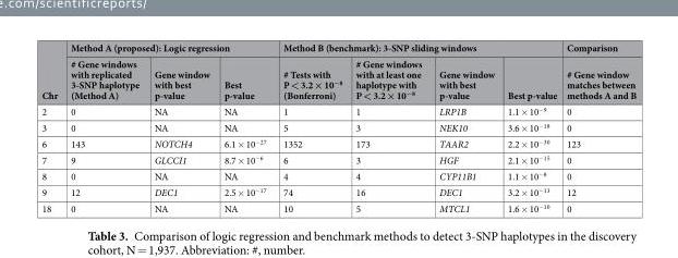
<table><thead><tr><td rowspan="2">Chr</td><td colspan="3">Method A (proposed): Logic regression</td><td colspan="4">Method B (benchmark): 3-SNP sliding windows</td><td rowspan="2">Comparison # Gene window matches between methods A and B</td></tr><tr><td># Gene windows with replicated 3-SNP haplotype (Method A)</td><td>Gene window with best p-value</td><td>Best p-value</td><td># Tests with P &lt; 3.2 × 10<sup>−8</sup> (Bonferroni)</td><td># Gene windows with at least one haplotype with P &lt; 3.2 × 10<sup>−8</sup></td><td>Gene window with best p-value</td><td>Best p-value</td></tr></thead><tbody><tr><td>2</td><td>0</td><td>NA</td><td>NA</td><td>1</td><td>1</td><td>LRP1B</td><td>1.1 × 10<sup>−9</sup></td><td>0</td></tr><tr><td>3</td><td>0</td><td>NA</td><td>NA</td><td>5</td><td>3</td><td>NEK10</td><td>3.6 × 10<sup>−18</sup></td><td>0</td></tr><tr><td>6</td><td>143</td><td>NOTCH4</td><td>6.1 × 10<sup>−27</sup></td><td>1352</td><td>173</td><td>TAAR2</td><td>2.2 × 10<sup>−30</sup></td><td>123</td></tr><tr><td>7</td><td>9</td><td>GLCCI1</td><td>8.7 × 10<sup>−6</sup></td><td>6</td><td>3</td><td>HGF</td><td>2.1 × 10<sup>−15</sup></td><td>0</td></tr><tr><td>8</td><td>0</td><td>NA</td><td>NA</td><td>4</td><td>4</td><td>CYP11B1</td><td>1.1 × 10<sup>−8</sup></td><td>0</td></tr><tr><td>9</td><td>12</td><td>DEC1</td><td>2.5 × 10<sup>−17</sup></td><td>74</td><td>16</td><td>DEC1</td><td>3.2 × 10<sup>−13</sup></td><td>12</td></tr><tr><td>18</td><td>0</td><td>NA</td><td>NA</td><td>10</td><td>5</td><td>MTCL1</td><td>1.6 × 10<sup>−10</sup></td><td>0</td></tr></tbody></table>